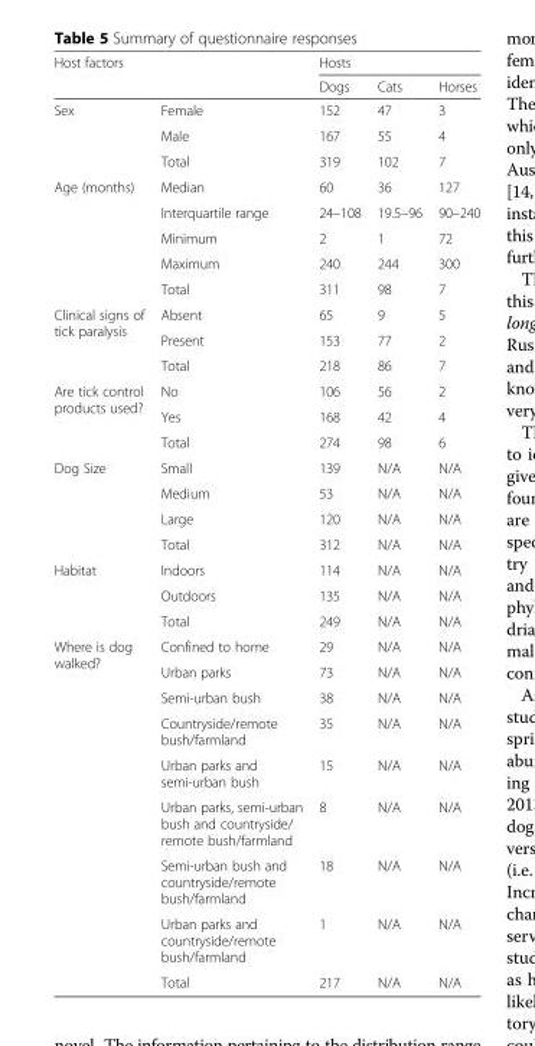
<table><thead><tr><td rowspan="2" colspan="2">Host factors</td><td colspan="3">Hosts</td></tr><tr><td rowspan="2">Dogs 152</td><td rowspan="2">Cats 47</td><td rowspan="2">Horses 3</td></tr><tr><td>Sex</td><td>Female</td></tr></thead><tbody><tr><td></td><td>Male</td><td>167</td><td>55</td><td>4</td></tr><tr><td></td><td>Total</td><td>319</td><td>102</td><td>7</td></tr><tr><td rowspan="5">Age (months)</td><td>Median</td><td>60</td><td>36</td><td>127</td></tr><tr><td>Interquartile range</td><td>24–108</td><td>19.5–96</td><td>90–240</td></tr><tr><td>Minimum</td><td>2</td><td>1</td><td>72</td></tr><tr><td>Maximum</td><td>240</td><td>244</td><td>300</td></tr><tr><td>Total</td><td>311</td><td>98</td><td>7</td></tr><tr><td rowspan="3">Clinical signs of tick paralysis</td><td>Absent</td><td>65</td><td>9</td><td>5</td></tr><tr><td>Present</td><td>153</td><td>77</td><td>2</td></tr><tr><td>Total</td><td>218</td><td>86</td><td>7</td></tr><tr><td rowspan="3">Are tick control products used?</td><td>No</td><td>106</td><td>56</td><td>2</td></tr><tr><td>Yes</td><td>168</td><td>42</td><td>4</td></tr><tr><td>Total</td><td>274</td><td>98</td><td>6</td></tr><tr><td rowspan="4">Dog Size</td><td>Small</td><td>139</td><td>N/A</td><td>N/A</td></tr><tr><td>Medium</td><td>53</td><td>N/A</td><td>N/A</td></tr><tr><td>Large</td><td>120</td><td>N/A</td><td>N/A</td></tr><tr><td>Total</td><td>312</td><td>N/A</td><td>N/A</td></tr><tr><td rowspan="3">Habitat</td><td>Indoors</td><td>114</td><td>N/A</td><td>N/A</td></tr><tr><td>Outdoors</td><td>135</td><td>N/A</td><td>N/A</td></tr><tr><td>Total</td><td>249</td><td>N/A</td><td>N/A</td></tr><tr><td rowspan="9">Where is dog walked?</td><td>Confined to home</td><td>29</td><td>N/A</td><td>N/A</td></tr><tr><td>Urban parks</td><td>73</td><td>N/A</td><td>N/A</td></tr><tr><td>Semi-urban bush</td><td>38</td><td>N/A</td><td>N/A</td></tr><tr><td>Countryside/remote bush/farmland</td><td>35</td><td>N/A</td><td>N/A</td></tr><tr><td>Urban parks and semi-urban bush</td><td>15</td><td>N/A</td><td>N/A</td></tr><tr><td>Urban parks, semi-urban bush and countryside/ remote bush/farmland</td><td>8</td><td>N/A</td><td>N/A</td></tr><tr><td>Semi-urban bush and countryside/remote bush/farmland</td><td>18</td><td>N/A</td><td>N/A</td></tr><tr><td>Urban parks and countryside/remote bush/farmland</td><td>1</td><td>N/A</td><td>N/A</td></tr><tr><td>Total</td><td>217</td><td>N/A</td><td>N/A</td></tr></tbody></table>